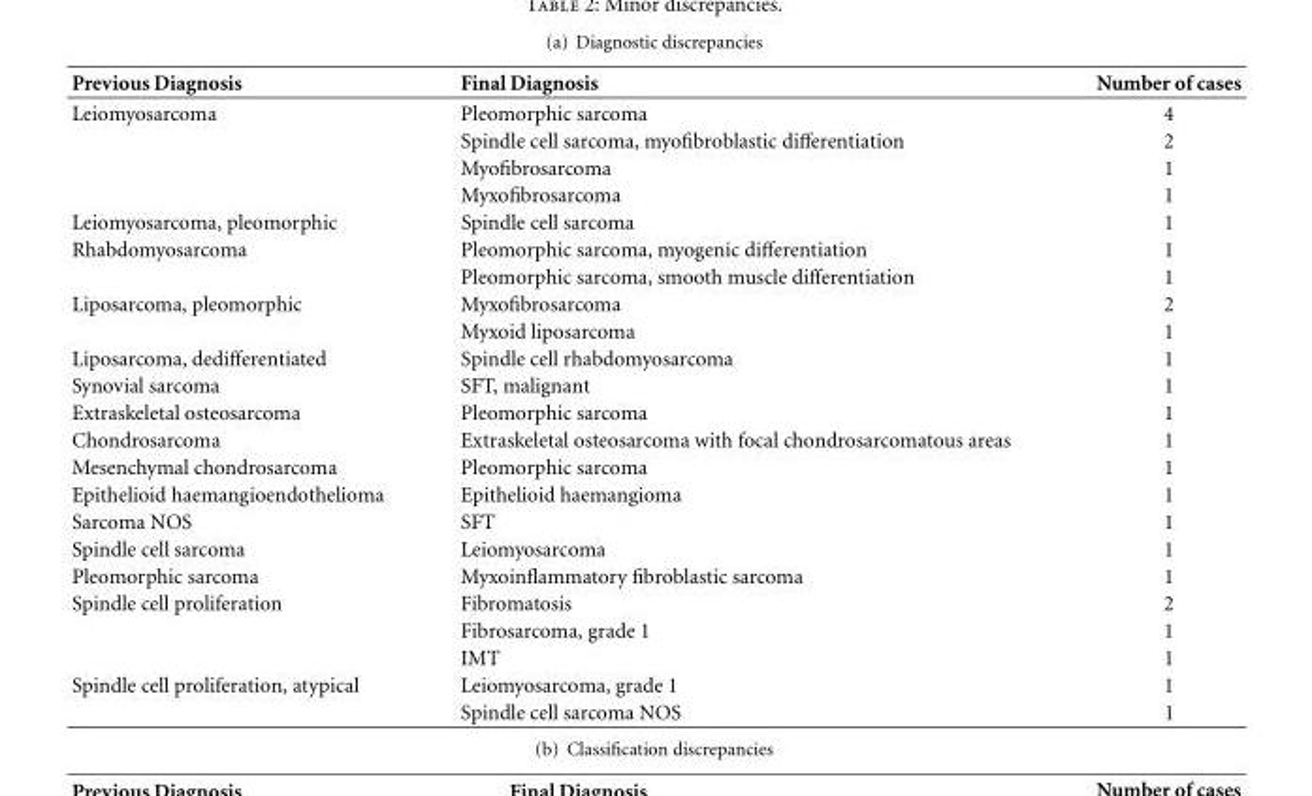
<table><thead><tr><td>Previous Diagnosis</td><td>Final Diagnosis</td><td>Number of cases</td></tr></thead><tbody><tr><td rowspan="4">Leiomyosarcoma</td><td>Pleomorphic sarcoma</td><td>4</td></tr><tr><td>Spindle cell sarcoma, myofibroblastic differentiation</td><td>2</td></tr><tr><td>Myofibrosarcoma</td><td>1</td></tr><tr><td>Myxofibrosarcoma</td><td>1</td></tr><tr><td>Leiomyosarcoma, pleomorphic</td><td>Spindle cell sarcoma</td><td>1</td></tr><tr><td rowspan="2">Rhabdomyosarcoma</td><td>Pleomorphic sarcoma, myogenic differentiation</td><td>1</td></tr><tr><td>Pleomorphic sarcoma, smooth muscle differentiation</td><td>1</td></tr><tr><td rowspan="2">Liposarcoma, pleomorphic</td><td>Myxofibrosarcoma</td><td>2</td></tr><tr><td>Myxoid liposarcoma</td><td>1</td></tr><tr><td>Liposarcoma, dedifferentiated</td><td>Spindle cell rhabdomyosarcoma</td><td>1</td></tr><tr><td>Synovial sarcoma</td><td>SFT, malignant</td><td>1</td></tr><tr><td>Extraskeletal osteosarcoma</td><td>Pleomorphic sarcoma</td><td>1</td></tr><tr><td>Chondrosarcoma</td><td>Extraskeletal osteosarcoma with focal chondrosarcomatous areas</td><td>1</td></tr><tr><td>Mesenchymal chondrosarcoma</td><td>Pleomorphic sarcoma</td><td>1</td></tr><tr><td>Epithelioid haemangioendothelioma</td><td>Epithelioid haemangioma</td><td>1</td></tr><tr><td>Sarcoma NOS</td><td>SFT</td><td>1</td></tr><tr><td>Spindle cell sarcoma</td><td>Leiomyosarcoma</td><td>1</td></tr><tr><td>Pleomorphic sarcoma</td><td>Myxoinflammatory fibroblastic sarcoma</td><td>1</td></tr><tr><td rowspan="3">Spindle cell proliferation</td><td>Fibromatosis</td><td>2</td></tr><tr><td>Fibrosarcoma, grade 1</td><td>1</td></tr><tr><td>IMT</td><td>1</td></tr><tr><td rowspan="2">Spindle cell proliferation, atypical</td><td>Leiomyosarcoma, grade 1</td><td>1</td></tr><tr><td>Spindle cell sarcoma NOS</td><td>1</td></tr></tbody></table>